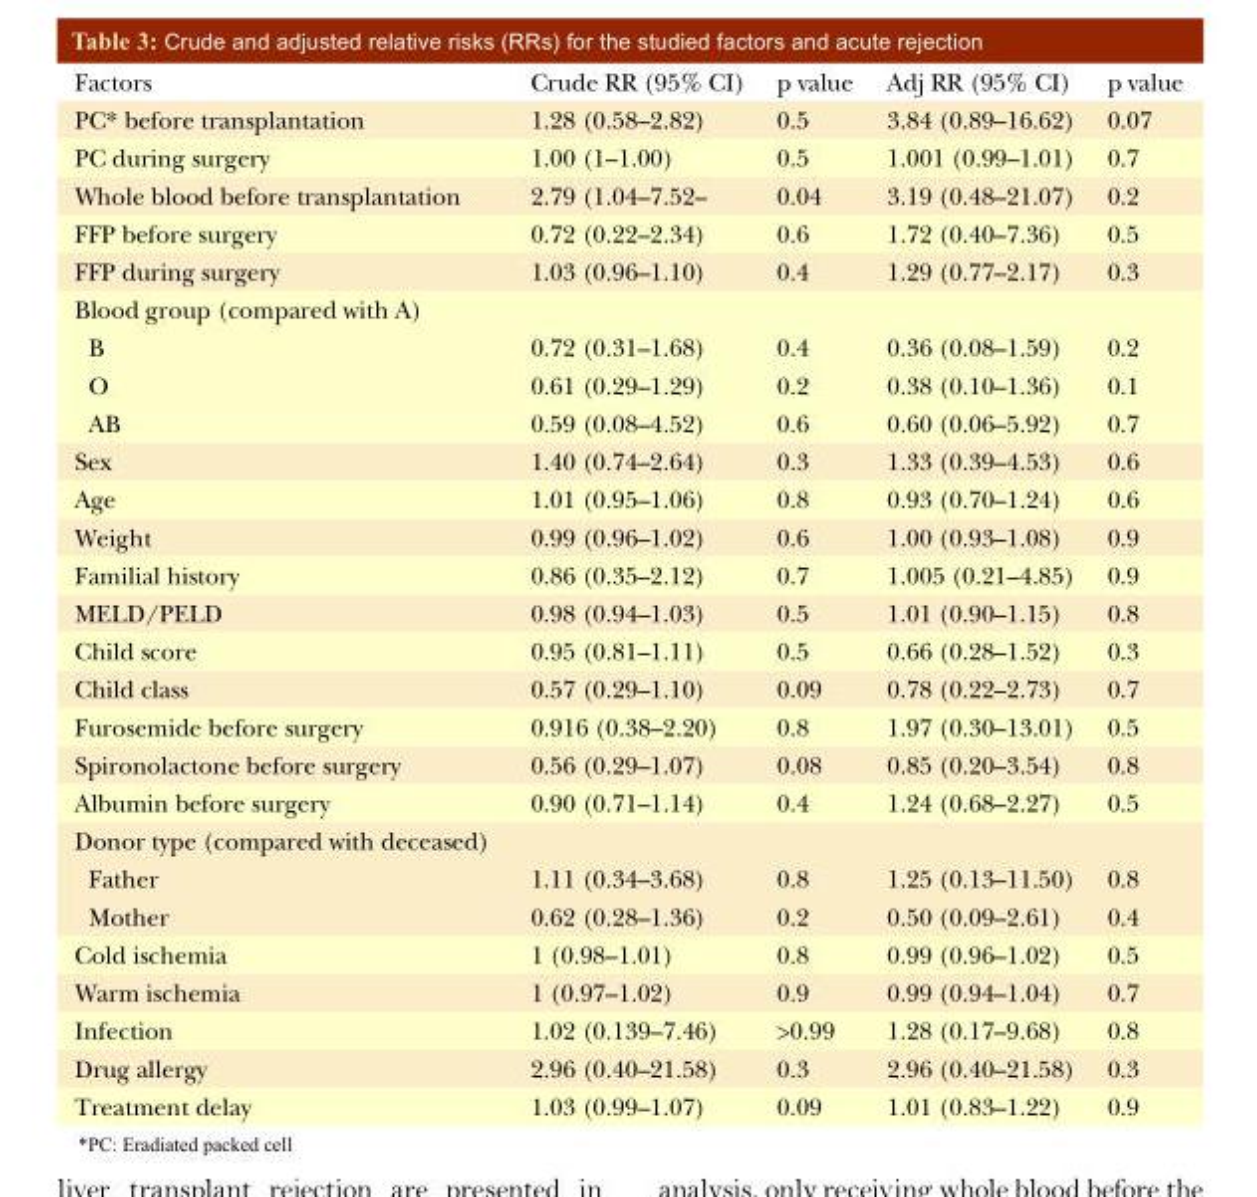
<table><thead><tr><td>Factors</td><td>Crude RR (95% CI)</td><td>p value</td><td>Adj RR (95% CI)</td><td>p value</td></tr></thead><tbody><tr><td>PC* before transplantation</td><td>1.28 (0.58–2.82)</td><td>0.5</td><td>3.84 (0.89–16.62)</td><td>0.07</td></tr><tr><td>PC during surgery</td><td>1.00 (1–1.00)</td><td>0.5</td><td>1.001 (0.99–1.01)</td><td>0.7</td></tr><tr><td>Whole blood before transplantation</td><td>2.79 (1.04–7.52–</td><td>0.04</td><td>3.19 (0.48–21.07)</td><td>0.2</td></tr><tr><td>FFP before surgery</td><td>0.72 (0.22–2.34)</td><td>0.6</td><td>1.72 (0.40–7.36)</td><td>0.5</td></tr><tr><td>FFP during surgery</td><td>1.03 (0.96–1.10)</td><td>0.4</td><td>1.29 (0.77–2.17)</td><td>0.3</td></tr><tr><td colspan="5">Blood group (compared with A)</td></tr><tr><td>B</td><td>0.72 (0.31–1.68)</td><td>0.4</td><td>0.36 (0.08–1.59)</td><td>0.2</td></tr><tr><td>O</td><td>0.61 (0.29–1.29)</td><td>0.2</td><td>0.38 (0.10–1.36)</td><td>0.1</td></tr><tr><td>AB</td><td>0.59 (0.08–4.52)</td><td>0.6</td><td>0.60 (0.06–5.92)</td><td>0.7</td></tr><tr><td>Sex</td><td>1.40 (0.74–2.64)</td><td>0.3</td><td>1.33 (0.39–4.53)</td><td>0.6</td></tr><tr><td>Age</td><td>1.01 (0.95–1.06)</td><td>0.8</td><td>0.93 (0.70–1.24)</td><td>0.6</td></tr><tr><td>Weight</td><td>0.99 (0.96–1.02)</td><td>0.6</td><td>1.00 (0.93–1.08)</td><td>0.9</td></tr><tr><td>Familial history</td><td>0.86 (0.35–2.12)</td><td>0.7</td><td>1.005 (0.21–4.85)</td><td>0.9</td></tr><tr><td>MELD/PELD</td><td>0.98 (0.94–1.03)</td><td>0.5</td><td>1.01 (0.90–1.15)</td><td>0.8</td></tr><tr><td>Child score</td><td>0.95 (0.81–1.11)</td><td>0.5</td><td>0.66 (0.28–1.52)</td><td>0.3</td></tr><tr><td>Child class</td><td>0.57 (0.29–1.10)</td><td>0.09</td><td>0.78 (0.22–2.73)</td><td>0.7</td></tr><tr><td>Furosemide before surgery</td><td>0.916 (0.38–2.20)</td><td>0.8</td><td>1.97 (0.30–13.01)</td><td>0.5</td></tr><tr><td>Spironolactone before surgery</td><td>0.56 (0.29–1.07)</td><td>0.08</td><td>0.85 (0.20–3.54)</td><td>0.8</td></tr><tr><td>Albumin before surgery</td><td>0.90 (0.71–1.14)</td><td>0.4</td><td>1.24 (0.68–2.27)</td><td>0.5</td></tr><tr><td colspan="5">Donor type (compared with deceased)</td></tr><tr><td>Father</td><td>1.11 (0.34–3.68)</td><td>0.8</td><td>1.25 (0.13–11.50)</td><td>0.8</td></tr><tr><td>Mother</td><td>0.62 (0.28–1.36)</td><td>0.2</td><td>0.50 (0.09–2.61)</td><td>0.4</td></tr><tr><td>Cold ischemia</td><td>1 (0.98–1.01)</td><td>0.8</td><td>0.99 (0.96–1.02)</td><td>0.5</td></tr><tr><td>Warm ischemia</td><td>1 (0.97–1.02)</td><td>0.9</td><td>0.99 (0.94–1.04)</td><td>0.7</td></tr><tr><td>Infection</td><td>1.02 (0.139–7.46)</td><td>&gt;0.99</td><td>1.28 (0.17–9.68)</td><td>0.8</td></tr><tr><td>Drug allergy</td><td>2.96 (0.40–21.58)</td><td>0.3</td><td>2.96 (0.40–21.58)</td><td>0.3</td></tr><tr><td>Treatment delay</td><td>1.03 (0.99–1.07)</td><td>0.09</td><td>1.01 (0.83–1.22)</td><td>0.9</td></tr></tbody></table>